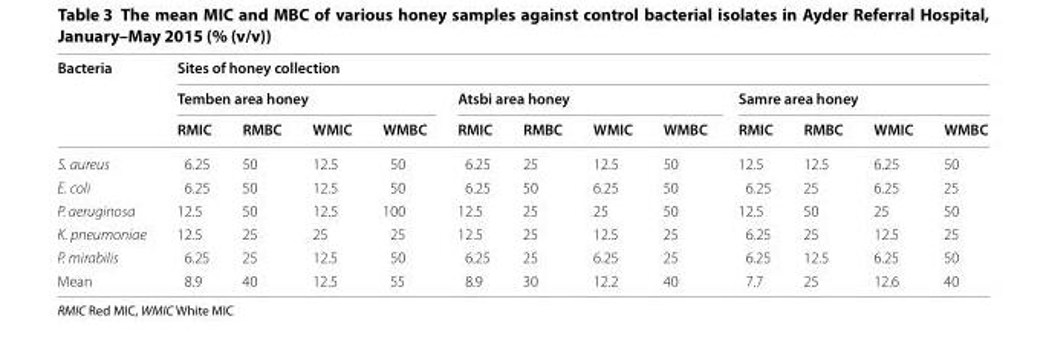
<table><thead><tr><td rowspan="3">Bacteria</td><td colspan="12">Sites of honey collection</td></tr><tr><td colspan="4">Temben area honey</td><td colspan="4">Atsbi area honey</td><td colspan="4">Samre area honey</td></tr><tr><td>RMIC</td><td>RMBC</td><td>WMIC</td><td>WMBC</td><td>RMIC</td><td>RMBC</td><td>WMIC</td><td>WMBC</td><td>RMIC</td><td>RMBC</td><td>WMIC</td><td>WMBC</td></tr></thead><tbody><tr><td>S. aureus</td><td>6.25</td><td>50</td><td>12.5</td><td>50</td><td>6.25</td><td>25</td><td>12.5</td><td>50</td><td>12.5</td><td>12.5</td><td>6.25</td><td>50</td></tr><tr><td>E. coli</td><td>6.25</td><td>50</td><td>12.5</td><td>50</td><td>6.25</td><td>50</td><td>6.25</td><td>50</td><td>6.25</td><td>25</td><td>6.25</td><td>25</td></tr><tr><td>P. aeruginosa</td><td>12.5</td><td>50</td><td>12.5</td><td>100</td><td>12.5</td><td>25</td><td>25</td><td>50</td><td>12.5</td><td>50</td><td>25</td><td>50</td></tr><tr><td>K. pneumoniae</td><td>12.5</td><td>25</td><td>25</td><td>25</td><td>12.5</td><td>25</td><td>12.5</td><td>25</td><td>6.25</td><td>25</td><td>12.5</td><td>25</td></tr><tr><td>P. mirabilis</td><td>6.25</td><td>25</td><td>12.5</td><td>50</td><td>6.25</td><td>25</td><td>6.25</td><td>25</td><td>6.25</td><td>12.5</td><td>6.25</td><td>50</td></tr><tr><td>Mean</td><td>8.9</td><td>40</td><td>12.5</td><td>55</td><td>8.9</td><td>30</td><td>12.2</td><td>40</td><td>7.7</td><td>25</td><td>12.6</td><td>40</td></tr></tbody></table>